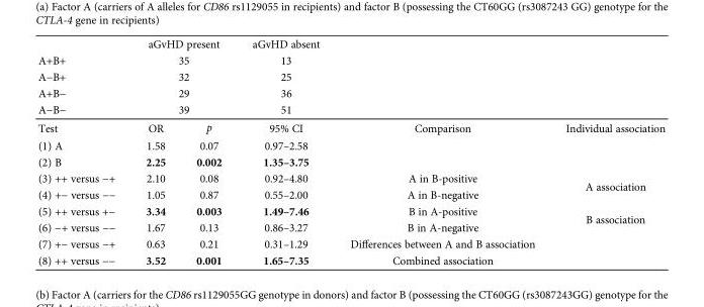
<table><thead><tr><td></td><td colspan="2">aGvHD present</td><td>aGvHD absent</td><td></td><td></td></tr></thead><tbody><tr><td>A+B+</td><td colspan="2">35</td><td>13</td><td></td><td></td></tr><tr><td>A−B+</td><td colspan="2">32</td><td>25</td><td></td><td></td></tr><tr><td>A+B−</td><td colspan="2">29</td><td>36</td><td></td><td></td></tr><tr><td>A−B−</td><td colspan="2">39</td><td>51</td><td></td><td></td></tr><tr><td>Test</td><td>OR</td><td>p</td><td>95% CI</td><td>Comparison</td><td>Individual association</td></tr><tr><td>(1) A</td><td>1.58</td><td>0.07</td><td>0.97–2.58</td><td></td><td></td></tr><tr><td>(2) B</td><td>2.25</td><td>0.002</td><td>1.35–3.75</td><td></td><td></td></tr><tr><td>(3) ++ versus −+</td><td>2.10</td><td>0.08</td><td>0.92–4.80</td><td>A in B-positive</td><td rowspan="2">A association</td></tr><tr><td>(4) +− versus −−</td><td>1.05</td><td>0.87</td><td>0.55–2.00</td><td>A in B-negative</td></tr><tr><td>(5) ++ versus +−</td><td>3.34</td><td>0.003</td><td>1.49–7.46</td><td>B in A-positive</td><td rowspan="2">B association</td></tr><tr><td>(6) −+ versus −−</td><td>1.67</td><td>0.13</td><td>0.86–3.27</td><td>B in A-negative</td></tr><tr><td>(7) +− versus −+</td><td>0.63</td><td>0.21</td><td>0.31–1.29</td><td>Differences between A and B association</td><td></td></tr><tr><td>(8) ++ versus −−</td><td>3.52</td><td>0.001</td><td>1.65–7.35</td><td>Combined association</td><td></td></tr></tbody></table>